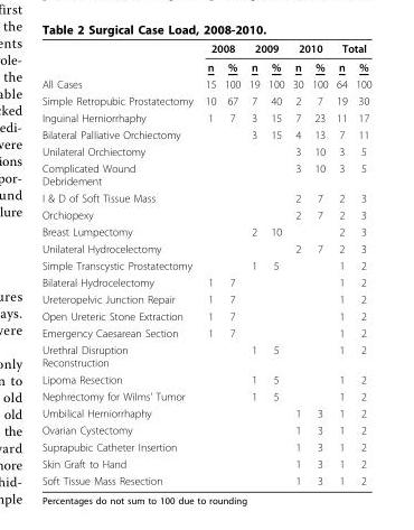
<table><thead><tr><td rowspan="2"></td><td colspan="2">2008</td><td colspan="2">2009</td><td colspan="2">2010</td><td colspan="2">Total</td></tr><tr><td>n</td><td>%</td><td>n</td><td>%</td><td>n</td><td>%</td><td>n</td><td>%</td></tr></thead><tbody><tr><td>All Cases</td><td>15</td><td>100</td><td>19</td><td>100</td><td>30</td><td>100</td><td>64</td><td>100</td></tr><tr><td>Simple Retropubic Prostatectomy</td><td>10</td><td>67</td><td>7</td><td>40</td><td>2</td><td>7</td><td>19</td><td>30</td></tr><tr><td>Inguinal Herniorrhaphy</td><td>1</td><td>7</td><td>3</td><td>15</td><td>7</td><td>23</td><td>11</td><td>17</td></tr><tr><td>Bilateral Palliative Orchiectomy</td><td></td><td></td><td>3</td><td>15</td><td>4</td><td>13</td><td>7</td><td>11</td></tr><tr><td>Unilateral Orchiectomy</td><td></td><td></td><td></td><td></td><td>3</td><td>10</td><td>3</td><td>5</td></tr><tr><td>Complicated Wound Debridement</td><td></td><td></td><td></td><td></td><td>3</td><td>10</td><td>3</td><td>5</td></tr><tr><td>I &amp; D of Soft Tissue Mass</td><td></td><td></td><td></td><td></td><td>2</td><td>7</td><td>2</td><td>3</td></tr><tr><td>Orchiopexy</td><td></td><td></td><td></td><td></td><td>2</td><td>7</td><td>2</td><td>3</td></tr><tr><td>Breast Lumpectomy</td><td></td><td></td><td>2</td><td>10</td><td></td><td></td><td>2</td><td>3</td></tr><tr><td>Unilateral Hydrocelectomy</td><td></td><td></td><td></td><td></td><td>2</td><td>7</td><td>2</td><td>3</td></tr><tr><td>Simple Transcystic Prostatectomy</td><td></td><td></td><td>1</td><td>5</td><td></td><td></td><td>1</td><td>2</td></tr><tr><td>Bilateral Hydrocelectomy</td><td>1</td><td>7</td><td></td><td></td><td></td><td></td><td>1</td><td>2</td></tr><tr><td>Ureteropelvic Junction Repair</td><td>1</td><td>7</td><td></td><td></td><td></td><td></td><td>1</td><td>2</td></tr><tr><td>Open Ureteric Stone Extraction</td><td>1</td><td>7</td><td></td><td></td><td></td><td></td><td>1</td><td>2</td></tr><tr><td>Emergency Caesarean Section</td><td>1</td><td>7</td><td></td><td></td><td></td><td></td><td>1</td><td>2</td></tr><tr><td>Urethral Disruption Reconstruction</td><td></td><td></td><td>1</td><td>5</td><td></td><td></td><td>1</td><td>2</td></tr><tr><td>Lipoma Resection</td><td></td><td></td><td>1</td><td>5</td><td></td><td></td><td>1</td><td>2</td></tr><tr><td>Nephrectomy for Wilms’ Tumor</td><td></td><td></td><td>1</td><td>5</td><td></td><td></td><td>1</td><td>2</td></tr><tr><td>Umbilical Herniorrhaphy</td><td></td><td></td><td></td><td></td><td>1</td><td>3</td><td>1</td><td>2</td></tr><tr><td>Ovarian Cystectomy</td><td></td><td></td><td></td><td></td><td>1</td><td>3</td><td>1</td><td>2</td></tr><tr><td>Suprapubic Catheter Insertion</td><td></td><td></td><td></td><td></td><td>1</td><td>3</td><td>1</td><td>2</td></tr><tr><td>Skin Graft to Hand</td><td></td><td></td><td></td><td></td><td>1</td><td>3</td><td>1</td><td>2</td></tr><tr><td>Soft Tissue Mass Resection</td><td></td><td></td><td></td><td></td><td>1</td><td>3</td><td>1</td><td>2</td></tr></tbody></table>